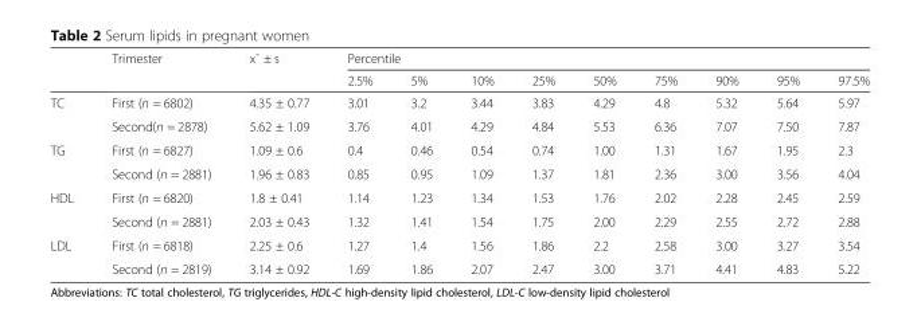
<table><thead><tr><td rowspan="2"></td><td rowspan="2">Trimester</td><td rowspan="2">x¯ ± s</td><td colspan="9">Percentile</td></tr><tr><td>2.5%</td><td>5%</td><td>10%</td><td>25%</td><td>50%</td><td>75%</td><td>90%</td><td>95%</td><td>97.5%</td></tr></thead><tbody><tr><td rowspan="2">TC</td><td>First (n = 6802)</td><td>4.35 ± 0.77</td><td>3.01</td><td>3.2</td><td>3.44</td><td>3.83</td><td>4.29</td><td>4.8</td><td>5.32</td><td>5.64</td><td>5.97</td></tr><tr><td>Second(n = 2878)</td><td>5.62 ± 1.09</td><td>3.76</td><td>4.01</td><td>4.29</td><td>4.84</td><td>5.53</td><td>6.36</td><td>7.07</td><td>7.50</td><td>7.87</td></tr><tr><td rowspan="2">TG</td><td>First (n = 6827)</td><td>1.09 ± 0.6</td><td>0.4</td><td>0.46</td><td>0.54</td><td>0.74</td><td>1.00</td><td>1.31</td><td>1.67</td><td>1.95</td><td>2.3</td></tr><tr><td>Second (n = 2881)</td><td>1.96 ± 0.83</td><td>0.85</td><td>0.95</td><td>1.09</td><td>1.37</td><td>1.81</td><td>2.36</td><td>3.00</td><td>3.56</td><td>4.04</td></tr><tr><td rowspan="2">HDL</td><td>First (n = 6820)</td><td>1.8 ± 0.41</td><td>1.14</td><td>1.23</td><td>1.34</td><td>1.53</td><td>1.76</td><td>2.02</td><td>2.28</td><td>2.45</td><td>2.59</td></tr><tr><td>Second (n = 2881)</td><td>2.03 ± 0.43</td><td>1.32</td><td>1.41</td><td>1.54</td><td>1.75</td><td>2.00</td><td>2.29</td><td>2.55</td><td>2.72</td><td>2.88</td></tr><tr><td rowspan="2">LDL</td><td>First (n = 6818)</td><td>2.25 ± 0.6</td><td>1.27</td><td>1.4</td><td>1.56</td><td>1.86</td><td>2.2</td><td>2.58</td><td>3.00</td><td>3.27</td><td>3.54</td></tr><tr><td>Second (n = 2819)</td><td>3.14 ± 0.92</td><td>1.69</td><td>1.86</td><td>2.07</td><td>2.47</td><td>3.00</td><td>3.71</td><td>4.41</td><td>4.83</td><td>5.22</td></tr></tbody></table>